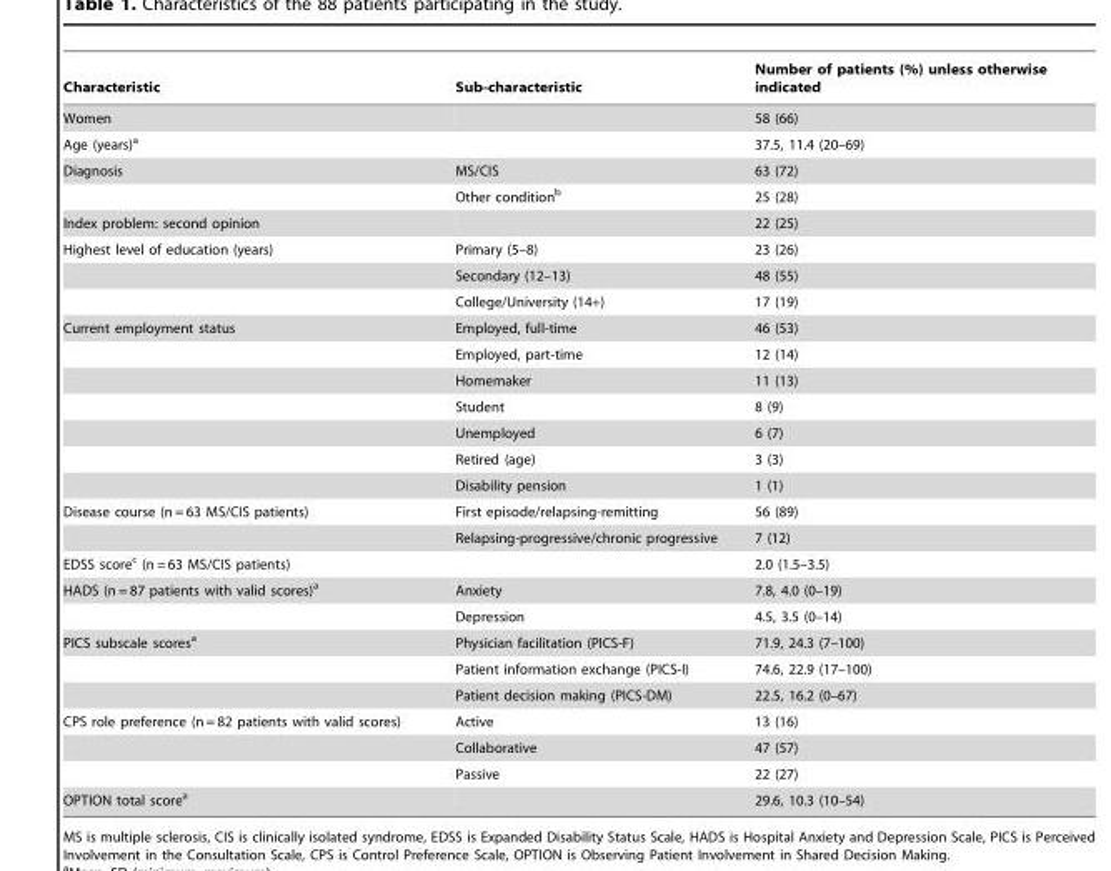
<table><thead><tr><td>Characteristic</td><td>Sub-characteristic</td><td>Number of patients (%) unless otherwise indicated</td></tr></thead><tbody><tr><td>Women</td><td></td><td>58 (66)</td></tr><tr><td>Age (years)<sup>a</sup></td><td></td><td>37.5, 11.4 (20–69)</td></tr><tr><td rowspan="2">Diagnosis</td><td>MS/CIS</td><td>63 (72)</td></tr><tr><td>Other condition<sup>b</sup></td><td>25 (28)</td></tr><tr><td>Index problem: second opinion</td><td></td><td>22 (25)</td></tr><tr><td rowspan="3">Highest level of education (years)</td><td>Primary (5–8)</td><td>23 (26)</td></tr><tr><td>Secondary (12–13)</td><td>48 (55)</td></tr><tr><td>College/University (14+)</td><td>17 (19)</td></tr><tr><td rowspan="7">Current employment status</td><td>Employed, full-time</td><td>46 (53)</td></tr><tr><td>Employed, part-time</td><td>12 (14)</td></tr><tr><td>Homemaker</td><td>11 (13)</td></tr><tr><td>Student</td><td>8 (9)</td></tr><tr><td>Unemployed</td><td>6 (7)</td></tr><tr><td>Retired (age)</td><td>3 (3)</td></tr><tr><td>Disability pension</td><td>1 (1)</td></tr><tr><td rowspan="2">Disease course (n = 63 MS/CIS patients)</td><td>First episode/relapsing-remitting</td><td>56 (89)</td></tr><tr><td>Relapsing-progressive/chronic progressive</td><td>7 (12)</td></tr><tr><td>EDSS score<sup>c</sup> (n = 63 MS/CIS patients)</td><td></td><td>2.0 (1.5–3.5)</td></tr><tr><td rowspan="2">HADS (n = 87 patients with valid scores)<sup>a</sup></td><td>Anxiety</td><td>7.8, 4.0 (0–19)</td></tr><tr><td>Depression</td><td>4.5, 3.5 (0–14)</td></tr><tr><td rowspan="3">PICS subscale scores<sup>a</sup></td><td>Physician facilitation (PICS-F)</td><td>71.9, 24.3 (7–100)</td></tr><tr><td>Patient information exchange (PICS-I)</td><td>74.6, 22.9 (17–100)</td></tr><tr><td>Patient decision making (PICS-DM)</td><td>22.5, 16.2 (0–67)</td></tr><tr><td rowspan="3">CPS role preference (n = 82 patients with valid scores)</td><td>Active</td><td>13 (16)</td></tr><tr><td>Collaborative</td><td>47 (57)</td></tr><tr><td>Passive</td><td>22 (27)</td></tr><tr><td>OPTION total score<sup>a</sup></td><td></td><td>29.6, 10.3 (10–54)</td></tr></tbody></table>